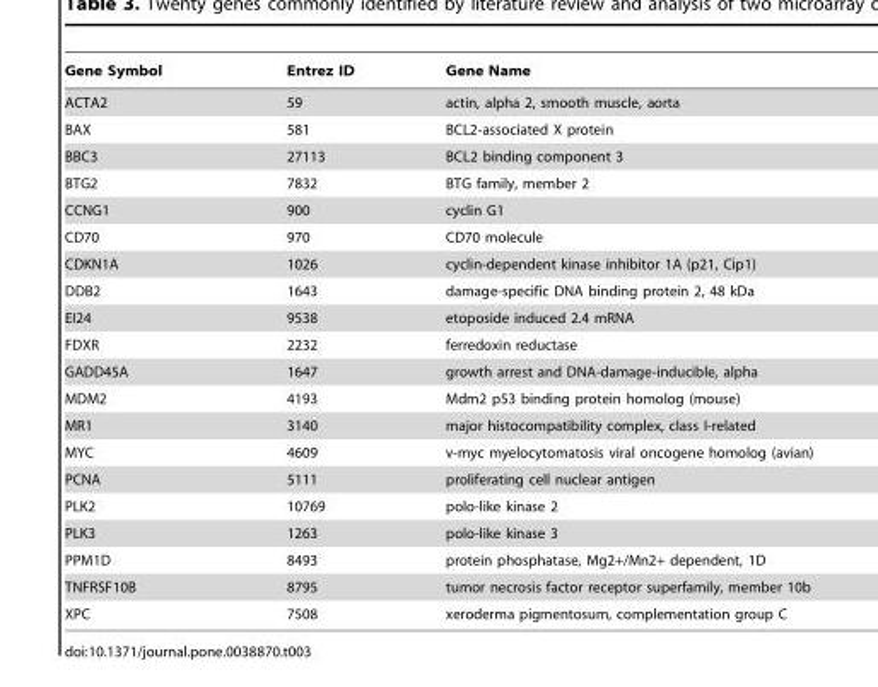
<table><thead><tr><td>Gene Symbol</td><td>Entrez ID</td><td>Gene Name</td></tr></thead><tbody><tr><td>ACTA2</td><td>59</td><td>actin, alpha 2, smooth muscle, aorta</td></tr><tr><td>BAX</td><td>581</td><td>BCL2-associated X protein</td></tr><tr><td>BBC3</td><td>27113</td><td>BCL2 binding component 3</td></tr><tr><td>BTG2</td><td>7832</td><td>BTG family, member 2</td></tr><tr><td>CCNG1</td><td>900</td><td>cyclin G1</td></tr><tr><td>CD70</td><td>970</td><td>CD70 molecule</td></tr><tr><td>CDKN1A</td><td>1026</td><td>cyclin-dependent kinase inhibitor 1A (p21, Cip1)</td></tr><tr><td>DDB2</td><td>1643</td><td>damage-specific DNA binding protein 2, 48 kDa</td></tr><tr><td>EI24</td><td>9538</td><td>etoposide induced 2.4 mRNA</td></tr><tr><td>FDXR</td><td>2232</td><td>ferredoxin reductase</td></tr><tr><td>GADD45A</td><td>1647</td><td>growth arrest and DNA-damage-inducible, alpha</td></tr><tr><td>MDM2</td><td>4193</td><td>Mdm2 p53 binding protein homolog (mouse)</td></tr><tr><td>MR1</td><td>3140</td><td>major histocompatibility complex, class I-related</td></tr><tr><td>MYC</td><td>4609</td><td>v-myc myelocytomatosis viral oncogene homolog (avian)</td></tr><tr><td>PCNA</td><td>5111</td><td>proliferating cell nuclear antigen</td></tr><tr><td>PLK2</td><td>10769</td><td>polo-like kinase 2</td></tr><tr><td>PLK3</td><td>1263</td><td>polo-like kinase 3</td></tr><tr><td>PPM1D</td><td>8493</td><td>protein phosphatase, Mg2+/Mn2+ dependent, 1D</td></tr><tr><td>TNFRSF10B</td><td>8795</td><td>tumor necrosis factor receptor superfamily, member 10b</td></tr><tr><td>XPC</td><td>7508</td><td>xeroderma pigmentosum, complementation group C</td></tr></tbody></table>